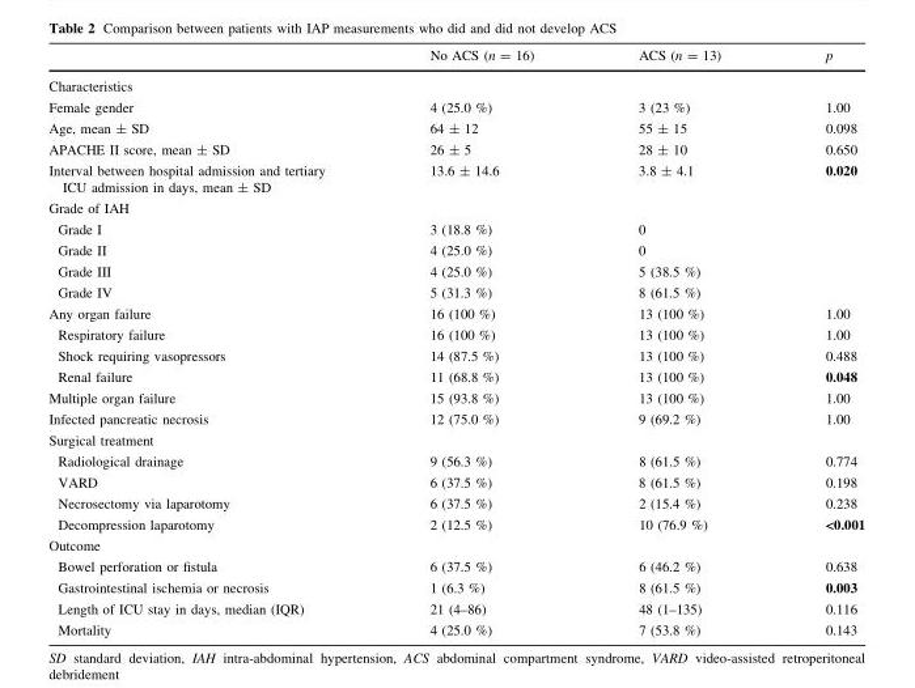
<table><thead><tr><td></td><td>No ACS (n = 16)</td><td>ACS (n = 13)</td><td>p</td></tr></thead><tbody><tr><td colspan="4">Characteristics</td></tr><tr><td>Female gender</td><td>4 (25.0 %)</td><td>3 (23 %)</td><td>1.00</td></tr><tr><td>Age, mean ± SD</td><td>64 ± 12</td><td>55 ± 15</td><td>0.098</td></tr><tr><td>APACHE II score, mean ± SD</td><td>26 ± 5</td><td>28 ± 10</td><td>0.650</td></tr><tr><td>Interval between hospital admission and tertiary ICU admission in days, mean ± SD</td><td>13.6 ± 14.6</td><td>3.8 ± 4.1</td><td>0.020</td></tr><tr><td colspan="4">Grade of IAH</td></tr><tr><td>Grade I</td><td>3 (18.8 %)</td><td>0</td><td></td></tr><tr><td>Grade II</td><td>4 (25.0 %)</td><td>0</td><td></td></tr><tr><td>Grade III</td><td>4 (25.0 %)</td><td>5 (38.5 %)</td><td></td></tr><tr><td>Grade IV</td><td>5 (31.3 %)</td><td>8 (61.5 %)</td><td></td></tr><tr><td>Any organ failure</td><td>16 (100 %)</td><td>13 (100 %)</td><td>1.00</td></tr><tr><td>Respiratory failure</td><td>16 (100 %)</td><td>13 (100 %)</td><td>1.00</td></tr><tr><td>Shock requiring vasopressors</td><td>14 (87.5 %)</td><td>13 (100 %)</td><td>0.488</td></tr><tr><td>Renal failure</td><td>11 (68.8 %)</td><td>13 (100 %)</td><td>0.048</td></tr><tr><td>Multiple organ failure</td><td>15 (93.8 %)</td><td>13 (100 %)</td><td>1.00</td></tr><tr><td>Infected pancreatic necrosis</td><td>12 (75.0 %)</td><td>9 (69.2 %)</td><td>1.00</td></tr><tr><td colspan="4">Surgical treatment</td></tr><tr><td>Radiological drainage</td><td>9 (56.3 %)</td><td>8 (61.5 %)</td><td>0.774</td></tr><tr><td>VARD</td><td>6 (37.5 %)</td><td>8 (61.5 %)</td><td>0.198</td></tr><tr><td>Necrosectomy via laparotomy</td><td>6 (37.5 %)</td><td>2 (15.4 %)</td><td>0.238</td></tr><tr><td>Decompression laparotomy</td><td>2 (12.5 %)</td><td>10 (76.9 %)</td><td>&lt;0.001</td></tr><tr><td colspan="4">Outcome</td></tr><tr><td>Bowel perforation or fistula</td><td>6 (37.5 %)</td><td>6 (46.2 %)</td><td>0.638</td></tr><tr><td>Gastrointestinal ischemia or necrosis</td><td>1 (6.3 %)</td><td>8 (61.5 %)</td><td>0.003</td></tr><tr><td>Length of ICU stay in days, median (IQR)</td><td>21 (4–86)</td><td>48 (1–135)</td><td>0.116</td></tr><tr><td>Mortality</td><td>4 (25.0 %)</td><td>7 (53.8 %)</td><td>0.143</td></tr></tbody></table>